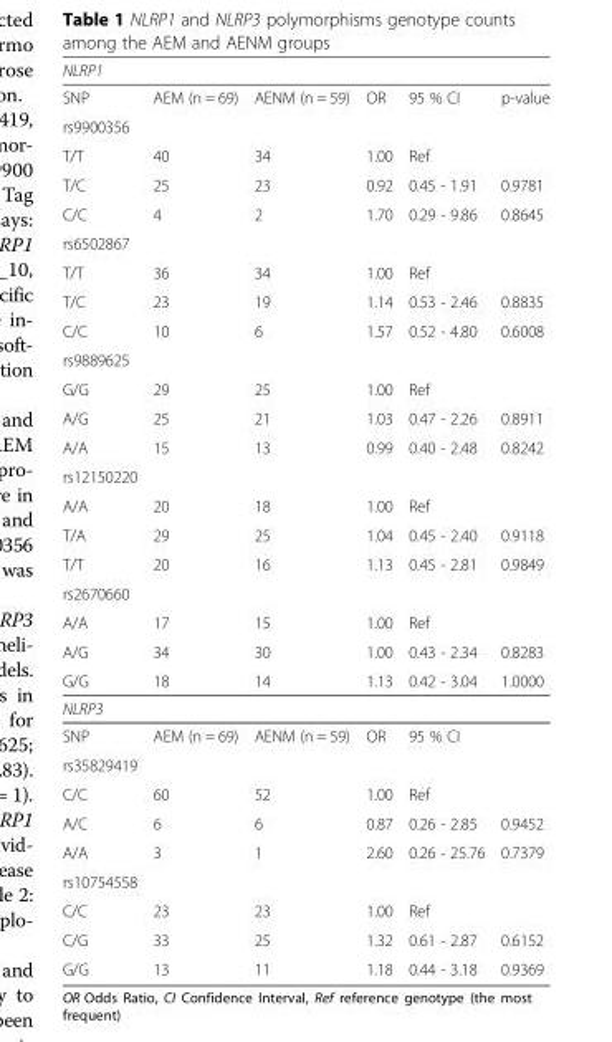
<table><thead><tr><td colspan="6">NLRP1</td></tr><tr><td>SNP</td><td>AEM (n = 69)</td><td>AENM (n = 59)</td><td>OR</td><td>95 % CI</td><td>p-value</td></tr></thead><tbody><tr><td colspan="6">rs9900356</td></tr><tr><td>T/T</td><td>40</td><td>34</td><td>1.00</td><td>Ref</td><td></td></tr><tr><td>T/C</td><td>25</td><td>23</td><td>0.92</td><td>0.45 - 1.91</td><td>0.9781</td></tr><tr><td>C/C</td><td>4</td><td>2</td><td>1.70</td><td>0.29 - 9.86</td><td>0.8645</td></tr><tr><td colspan="6">rs6502867</td></tr><tr><td>T/T</td><td>36</td><td>34</td><td>1.00</td><td>Ref</td><td></td></tr><tr><td>T/C</td><td>23</td><td>19</td><td>1.14</td><td>0.53 - 2.46</td><td>0.8835</td></tr><tr><td>C/C</td><td>10</td><td>6</td><td>1.57</td><td>0.52 - 4.80</td><td>0.6008</td></tr><tr><td colspan="6">rs9889625</td></tr><tr><td>G/G</td><td>29</td><td>25</td><td>1.00</td><td>Ref</td><td></td></tr><tr><td>A/G</td><td>25</td><td>21</td><td>1.03</td><td>0.47 - 2.26</td><td>0.8911</td></tr><tr><td>A/A</td><td>15</td><td>13</td><td>0.99</td><td>0.40 - 2.48</td><td>0.8242</td></tr><tr><td colspan="6">rs12150220</td></tr><tr><td>A/A</td><td>20</td><td>18</td><td>1.00</td><td>Ref</td><td></td></tr><tr><td>T/A</td><td>29</td><td>25</td><td>1.04</td><td>0.45 - 2.40</td><td>0.9118</td></tr><tr><td>T/T</td><td>20</td><td>16</td><td>1.13</td><td>0.45 - 2.81</td><td>0.9849</td></tr><tr><td colspan="6">rs2670660</td></tr><tr><td>A/A</td><td>17</td><td>15</td><td>1.00</td><td>Ref</td><td></td></tr><tr><td>A/G</td><td>34</td><td>30</td><td>1.00</td><td>0.43 - 2.34</td><td>0.8283</td></tr><tr><td>G/G</td><td>18</td><td>14</td><td>1.13</td><td>0.42 - 3.04</td><td>1.0000</td></tr><tr><td colspan="6">NLRP3</td></tr><tr><td>SNP</td><td>AEM (n = 69)</td><td>AENM (n = 59)</td><td>OR</td><td>95 % CI</td><td></td></tr><tr><td colspan="6">rs35829419</td></tr><tr><td>C/C</td><td>60</td><td>52</td><td>1.00</td><td>Ref</td><td></td></tr><tr><td>A/C</td><td>6</td><td>6</td><td>0.87</td><td>0.26 - 2.85</td><td>0.9452</td></tr><tr><td>A/A</td><td>3</td><td>1</td><td>2.60</td><td>0.26 - 25.76</td><td>0.7379</td></tr><tr><td colspan="6">rs10754558</td></tr><tr><td>C/C</td><td>23</td><td>23</td><td>1.00</td><td>Ref</td><td></td></tr><tr><td>C/G</td><td>33</td><td>25</td><td>1.32</td><td>0.61 - 2.87</td><td>0.6152</td></tr><tr><td>G/G</td><td>13</td><td>11</td><td>1.18</td><td>0.44 - 3.18</td><td>0.9369</td></tr></tbody></table>